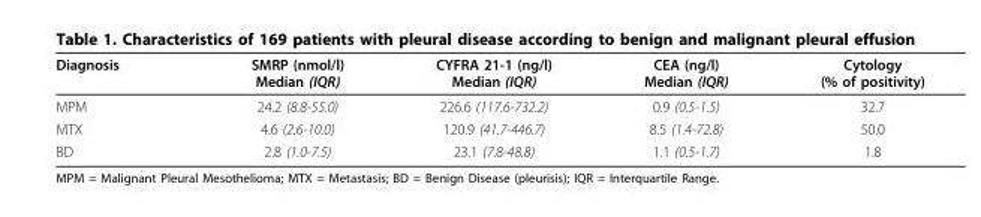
<table><thead><tr><td>Diagnosis</td><td>SMRP (nmol/l) Median (IQR)</td><td>CYFRA 21-1 (ng/l) Median (IQR)</td><td>CEA (ng/l) Median (IQR)</td><td>Cytology (% of positivity)</td></tr></thead><tbody><tr><td>MPM</td><td>24.2 (8.8-55.0)</td><td>226.6 (117.6-732.2)</td><td>0.9 (0.5-1.5)</td><td>32.7</td></tr><tr><td>MTX</td><td>4.6 (2.6-10.0)</td><td>120.9 (41.7-446.7)</td><td>8.5 (1.4-72.8)</td><td>50.0</td></tr><tr><td>BD</td><td>2.8 (1.0-7.5)</td><td>23.1 (7.8-48.8)</td><td>1.1 (0.5-1.7)</td><td>1.8</td></tr></tbody></table>